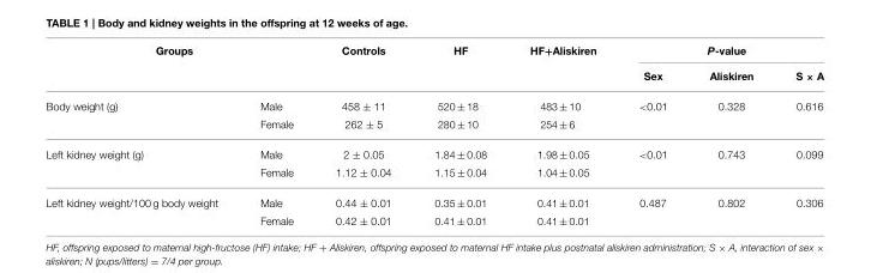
<table><thead><tr><td colspan="2">Groups</td><td rowspan="2">Controls</td><td rowspan="2">HF</td><td rowspan="2">HF+Aliskiren</td><td colspan="3">P-value</td></tr><tr><td></td><td></td><td>Sex</td><td>Aliskiren</td><td>S × A</td></tr></thead><tbody><tr><td rowspan="2">Body weight (g)</td><td>Male</td><td>458 ± 11</td><td>520 ± 18</td><td>483 ± 10</td><td>&lt;0.01</td><td>0.328</td><td>0.616</td></tr><tr><td>Female</td><td>262 ± 5</td><td>280 ± 10</td><td>254 ± 6</td><td></td><td></td><td></td></tr><tr><td rowspan="2">Left kidney weight (g)</td><td>Male</td><td>2 ± 0.05</td><td>1.84 ± 0.08</td><td>1.98 ± 0.05</td><td>&lt;0.01</td><td>0.743</td><td>0.099</td></tr><tr><td>Female</td><td>1.12 ± 0.04</td><td>1.15 ± 0.04</td><td>1.04 ± 0.05</td><td></td><td></td><td></td></tr><tr><td rowspan="2">Left kidney weight/100 g body weight</td><td>Male</td><td>0.44 ± 0.01</td><td>0.35 ± 0.01</td><td>0.41 ± 0.01</td><td>0.487</td><td>0.802</td><td>0.306</td></tr><tr><td>Female</td><td>0.42 ± 0.01</td><td>0.41 ± 0.01</td><td>0.41 ± 0.01</td><td></td><td></td><td></td></tr></tbody></table>